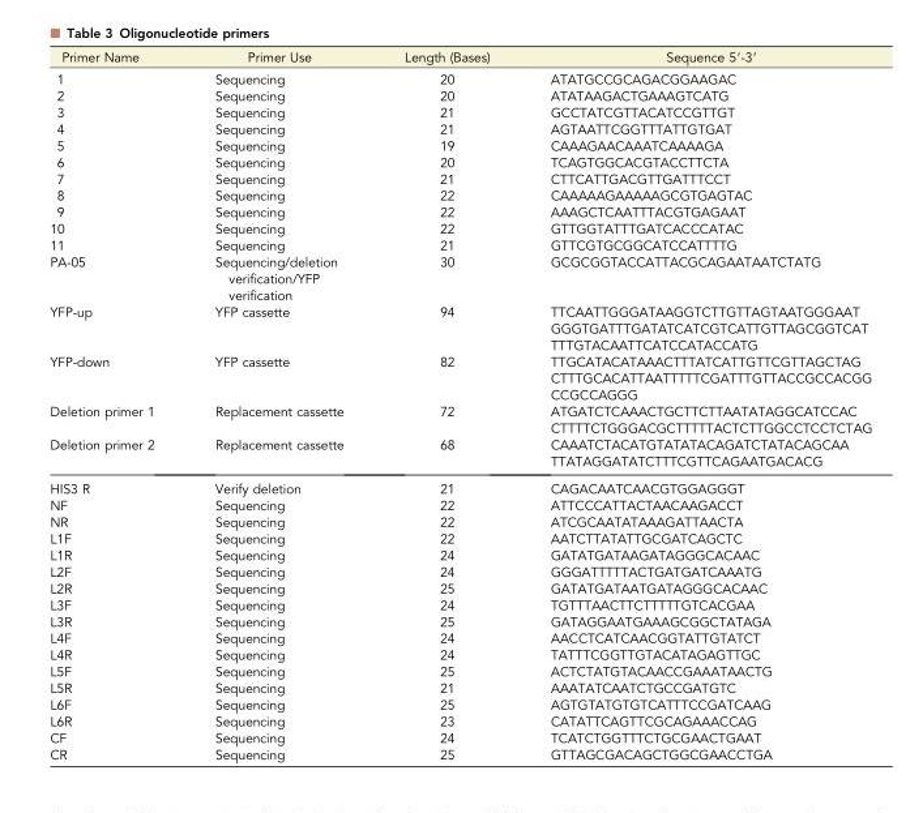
<table><thead><tr><td>Primer Name</td><td>Primer Use</td><td>Length (Bases)</td><td>Sequence 5′-3′</td></tr></thead><tbody><tr><td>1</td><td>Sequencing</td><td>20</td><td>ATATGCCGCAGACGGAAGAC</td></tr><tr><td>2</td><td>Sequencing</td><td>20</td><td>ATATAAGACTGAAAGTCATG</td></tr><tr><td>3</td><td>Sequencing</td><td>21</td><td>GCCTATCGTTACATCCGTTGT</td></tr><tr><td>4</td><td>Sequencing</td><td>21</td><td>AGTAATTCGGTTTATTGTGAT</td></tr><tr><td>5</td><td>Sequencing</td><td>19</td><td>CAAAGAACAAATCAAAAGA</td></tr><tr><td>6</td><td>Sequencing</td><td>20</td><td>TCAGTGGCACGTACCTTCTA</td></tr><tr><td>7</td><td>Sequencing</td><td>21</td><td>CTTCATTGACGTTGATTTCCT</td></tr><tr><td>8</td><td>Sequencing</td><td>22</td><td>CAAAAAGAAAAAGCGTGAGTAC</td></tr><tr><td>9</td><td>Sequencing</td><td>22</td><td>AAAGCTCAATTTACGTGAGAAT</td></tr><tr><td>10</td><td>Sequencing</td><td>22</td><td>GTTGGTATTTGATCACCCATAC</td></tr><tr><td>11</td><td>Sequencing</td><td>21</td><td>GTTCGTGCGGCATCCATTTTG</td></tr><tr><td>PA-05</td><td>Sequencing/deletion verification/YFP verification</td><td>30</td><td>GCGCGGTACCATTACGCAGAATAATCTATG</td></tr><tr><td rowspan="3">YFP-up</td><td rowspan="3">YFP cassette</td><td rowspan="3">94</td><td>TTCAATTGGGATAAGGTCTTGTTAGTAATGGGAAT</td></tr><tr><td>GGGTGATTTGATATCATCGTCATTGTTAGCGGTCAT</td></tr><tr><td>TTTGTACAATTCATCCATACCATG</td></tr><tr><td rowspan="3">YFP-down</td><td rowspan="3">YFP cassette</td><td rowspan="3">82</td><td>TTGCATACATAAACTTTATCATTGTTCGTTAGCTAG</td></tr><tr><td>CTTTGCACATTAATTTTTCGATTTGTTACCGCCACGG</td></tr><tr><td>CCGCCAGGG</td></tr><tr><td rowspan="2">Deletion primer 1</td><td rowspan="2">Replacement cassette</td><td rowspan="2">72</td><td>ATGATCTCAAACTGCTTCTTAATATAGGCATCCAC</td></tr><tr><td>CTTTTCTGGGACGCTTTTTACTCTTGGCCTCCTCTAG</td></tr><tr><td rowspan="2">Deletion primer 2</td><td rowspan="2">Replacement cassette</td><td rowspan="2">68</td><td>CAAATCTACATGTATATACAGATCTATACAGCAA</td></tr><tr><td>TTATAGGATATCTTTCGTTCAGAATGACACG</td></tr><tr><td>HIS3 R</td><td>Verify deletion</td><td>21</td><td>CAGACAATCAACGTGGAGGGT</td></tr><tr><td>NF</td><td>Sequencing</td><td>22</td><td>ATTCCCATTACTAACAAGACCT</td></tr><tr><td>NR</td><td>Sequencing</td><td>22</td><td>ATCGCAATATAAAGATTAACTA</td></tr><tr><td>L1F</td><td>Sequencing</td><td>22</td><td>AATCTTATATTGCGATCAGCTC</td></tr><tr><td>L1R</td><td>Sequencing</td><td>24</td><td>GATATGATAAGATAGGGCACAAC</td></tr><tr><td>L2F</td><td>Sequencing</td><td>24</td><td>GGGATTTTTACTGATGATCAAATG</td></tr><tr><td>L2R</td><td>Sequencing</td><td>25</td><td>GATATGATAATGATAGGGCACAAC</td></tr><tr><td>L3F</td><td>Sequencing</td><td>24</td><td>TGTTTAACTTCTTTTTGTCACGAA</td></tr><tr><td>L3R</td><td>Sequencing</td><td>25</td><td>GATAGGAATGAAAGCGGCTATAGA</td></tr><tr><td>L4F</td><td>Sequencing</td><td>24</td><td>AACCTCATCAACGGTATTGTATCT</td></tr><tr><td>L4R</td><td>Sequencing</td><td>24</td><td>TATTTCGGTTGTACATAGAGTTGC</td></tr><tr><td>L5F</td><td>Sequencing</td><td>25</td><td>ACTCTATGTACAACCGAAATAACTG</td></tr><tr><td>L5R</td><td>Sequencing</td><td>21</td><td>AAATATCAATCTGCCGATGTC</td></tr><tr><td>L6F</td><td>Sequencing</td><td>25</td><td>AGTGTATGTGTCATTTCCGATCAAG</td></tr><tr><td>L6R</td><td>Sequencing</td><td>23</td><td>CATATTCAGTTCGCAGAAACCAG</td></tr><tr><td>CF</td><td>Sequencing</td><td>24</td><td>TCATCTGGTTTCTGCGAACTGAAT</td></tr><tr><td>CR</td><td>Sequencing</td><td>25</td><td>GTTAGCGACAGCTGGCGAACCTGA</td></tr></tbody></table>